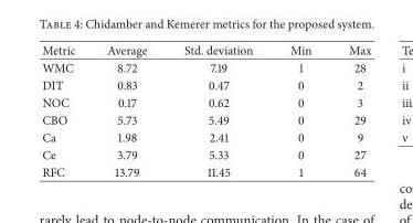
<table><thead><tr><td>Metric</td><td>Average</td><td>Std. deviation</td><td>Min</td><td>Max</td></tr></thead><tbody><tr><td>WMC</td><td>8.72</td><td>7.19</td><td>1</td><td>28</td></tr><tr><td>DIT</td><td>0.83</td><td>0.47</td><td>0</td><td>2</td></tr><tr><td>NOC</td><td>0.17</td><td>0.62</td><td>0</td><td>3</td></tr><tr><td>CBO</td><td>5.73</td><td>5.49</td><td>0</td><td>29</td></tr><tr><td>Ca</td><td>1.98</td><td>2.41</td><td>0</td><td>9</td></tr><tr><td>Ce</td><td>3.79</td><td>5.33</td><td>0</td><td>27</td></tr><tr><td>RFC</td><td>13.79</td><td>11.45</td><td>1</td><td>64</td></tr></tbody></table>